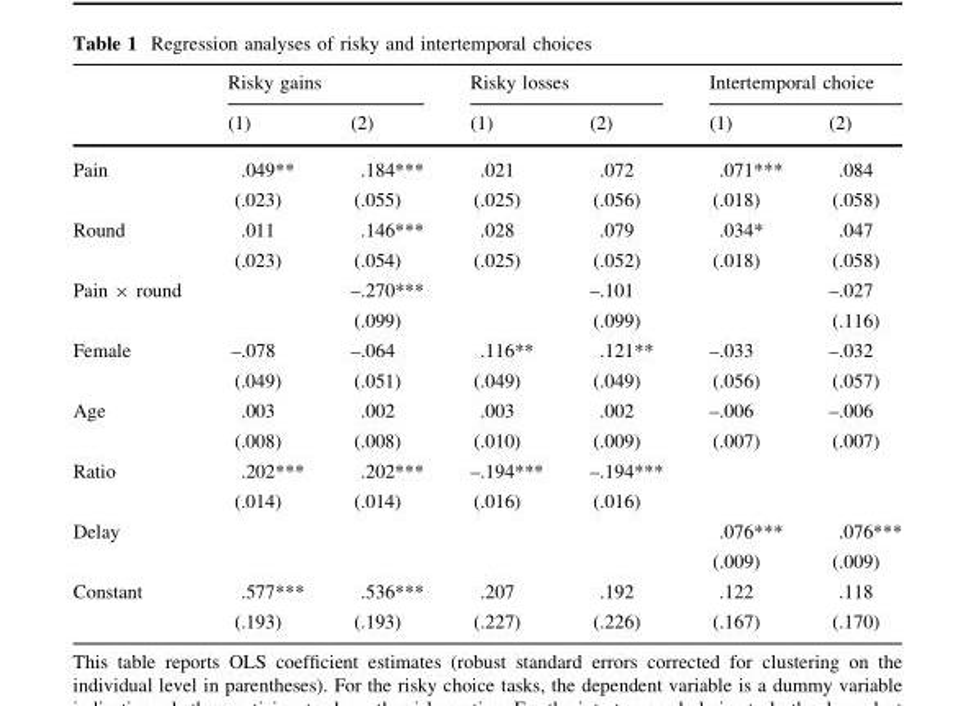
<table><thead><tr><td rowspan="2"></td><td colspan="2">Risky gains</td><td colspan="2">Risky losses</td><td colspan="2">Intertemporal choice</td></tr><tr><td>(1)</td><td>(2)</td><td>(1)</td><td>(2)</td><td>(1)</td><td>(2)</td></tr></thead><tbody><tr><td rowspan="2">Pain</td><td>.049**</td><td>.184***</td><td>.021</td><td>.072</td><td>.071***</td><td>.084</td></tr><tr><td>(.023)</td><td>(.055)</td><td>(.025)</td><td>(.056)</td><td>(.018)</td><td>(.058)</td></tr><tr><td rowspan="2">Round</td><td>.011</td><td>.146***</td><td>.028</td><td>.079</td><td>.034*</td><td>.047</td></tr><tr><td>(.023)</td><td>(.054)</td><td>(.025)</td><td>(.052)</td><td>(.018)</td><td>(.058)</td></tr><tr><td rowspan="2">Pain × round</td><td></td><td>–.270***</td><td></td><td>–.101</td><td></td><td>–.027</td></tr><tr><td></td><td>(.099)</td><td></td><td>(.099)</td><td></td><td>(.116)</td></tr><tr><td rowspan="2">Female</td><td>–.078</td><td>–.064</td><td>.116**</td><td>.121**</td><td>–.033</td><td>–.032</td></tr><tr><td>(.049)</td><td>(.051)</td><td>(.049)</td><td>(.049)</td><td>(.056)</td><td>(.057)</td></tr><tr><td rowspan="2">Age</td><td>.003</td><td>.002</td><td>.003</td><td>.002</td><td>–.006</td><td>–.006</td></tr><tr><td>(.008)</td><td>(.008)</td><td>(.010)</td><td>(.009)</td><td>(.007)</td><td>(.007)</td></tr><tr><td rowspan="2">Ratio</td><td>.202***</td><td>.202***</td><td>–.194***</td><td>–.194***</td><td></td><td></td></tr><tr><td>(.014)</td><td>(.014)</td><td>(.016)</td><td>(.016)</td><td></td><td></td></tr><tr><td rowspan="2">Delay</td><td></td><td></td><td></td><td></td><td>.076***</td><td>.076***</td></tr><tr><td></td><td></td><td></td><td></td><td>(.009)</td><td>(.009)</td></tr><tr><td rowspan="2">Constant</td><td>.577***</td><td>.536***</td><td>.207</td><td>.192</td><td>.122</td><td>.118</td></tr><tr><td>(.193)</td><td>(.193)</td><td>(.227)</td><td>(.226)</td><td>(.167)</td><td>(.170)</td></tr></tbody></table>